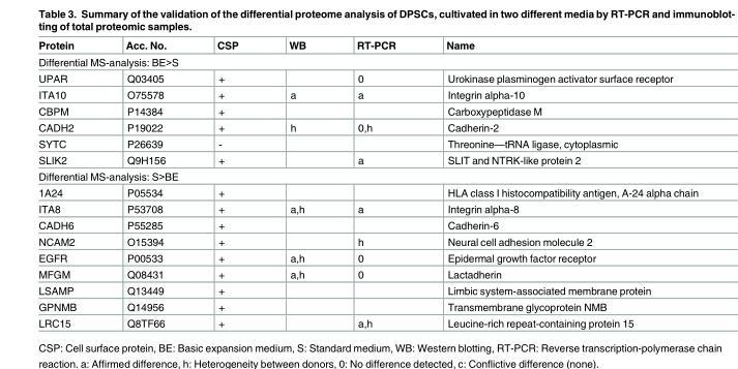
<table><thead><tr><td>Protein</td><td>Acc. No.</td><td>CSP</td><td>WB</td><td>RT-PCR</td><td>Name</td></tr></thead><tbody><tr><td colspan="6">Differential MS-analysis: BE&gt;S</td></tr><tr><td>UPAR</td><td>Q03405</td><td>+</td><td></td><td>0</td><td>Urokinase plasminogen activator surface receptor</td></tr><tr><td>ITA10</td><td>O75578</td><td>+</td><td>a</td><td>a</td><td>Integrin alpha-10</td></tr><tr><td>CBPM</td><td>P14384</td><td>+</td><td></td><td></td><td>Carboxypeptidase M</td></tr><tr><td>CADH2</td><td>P19022</td><td>+</td><td>h</td><td>0,h</td><td>Cadherin-2</td></tr><tr><td>SYTC</td><td>P26639</td><td>-</td><td></td><td></td><td>Threonine—tRNA ligase, cytoplasmic</td></tr><tr><td>SLIK2</td><td>Q9H156</td><td>+</td><td></td><td>a</td><td>SLIT and NTRK-like protein 2</td></tr><tr><td colspan="6">Differential MS-analysis: S&gt;BE</td></tr><tr><td>1A24</td><td>P05534</td><td>+</td><td></td><td></td><td>HLA class I histocompatibility antigen, A-24 alpha chain</td></tr><tr><td>ITA8</td><td>P53708</td><td>+</td><td>a,h</td><td>a</td><td>Integrin alpha-8</td></tr><tr><td>CADH6</td><td>P55285</td><td>+</td><td></td><td></td><td>Cadherin-6</td></tr><tr><td>NCAM2</td><td>O15394</td><td>+</td><td></td><td>h</td><td>Neural cell adhesion molecule 2</td></tr><tr><td>EGFR</td><td>P00533</td><td>+</td><td>a,h</td><td>0</td><td>Epidermal growth factor receptor</td></tr><tr><td>MFGM</td><td>Q08431</td><td>+</td><td>a,h</td><td>0</td><td>Lactadherin</td></tr><tr><td>LSAMP</td><td>Q13449</td><td>+</td><td></td><td></td><td>Limbic system-associated membrane protein</td></tr><tr><td>GPNMB</td><td>Q14956</td><td>+</td><td></td><td></td><td>Transmembrane glycoprotein NMB</td></tr><tr><td>LRC15</td><td>Q8TF66</td><td>+</td><td></td><td>a,h</td><td>Leucine-rich repeat-containing protein 15</td></tr></tbody></table>